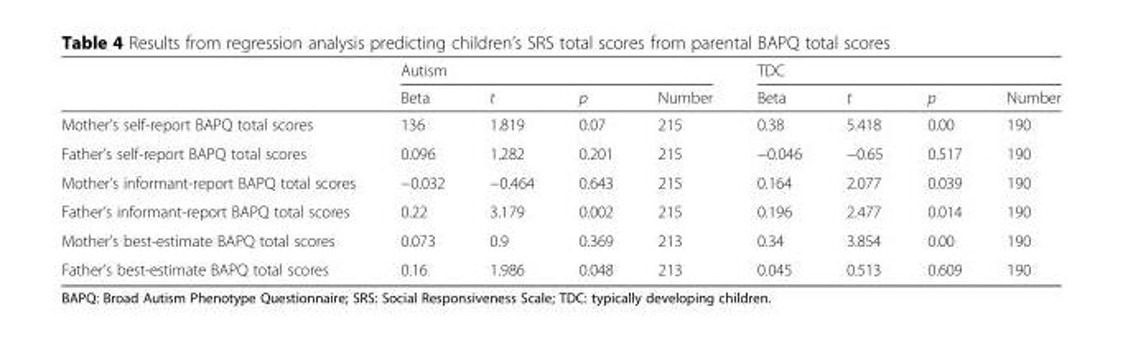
<table><thead><tr><td rowspan="2"></td><td colspan="4">Autism</td><td colspan="4">TDC</td></tr><tr><td>Beta</td><td>t</td><td>p</td><td>Number</td><td>Beta</td><td>t</td><td>p</td><td>Number</td></tr></thead><tbody><tr><td>Mother’s self-report BAPQ total scores</td><td>136</td><td>1.819</td><td>0.07</td><td>215</td><td>0.38</td><td>5.418</td><td>0.00</td><td>190</td></tr><tr><td>Father’s self-report BAPQ total scores</td><td>0.096</td><td>1.282</td><td>0.201</td><td>215</td><td>−0.046</td><td>−0.65</td><td>0.517</td><td>190</td></tr><tr><td>Mother’s informant-report BAPQ total scores</td><td>−0.032</td><td>−0.464</td><td>0.643</td><td>215</td><td>0.164</td><td>2.077</td><td>0.039</td><td>190</td></tr><tr><td>Father’s informant-report BAPQ total scores</td><td>0.22</td><td>3.179</td><td>0.002</td><td>215</td><td>0.196</td><td>2.477</td><td>0.014</td><td>190</td></tr><tr><td>Mother’s best-estimate BAPQ total scores</td><td>0.073</td><td>0.9</td><td>0.369</td><td>213</td><td>0.34</td><td>3.854</td><td>0.00</td><td>190</td></tr><tr><td>Father’s best-estimate BAPQ total scores</td><td>0.16</td><td>1.986</td><td>0.048</td><td>213</td><td>0.045</td><td>0.513</td><td>0.609</td><td>190</td></tr></tbody></table>